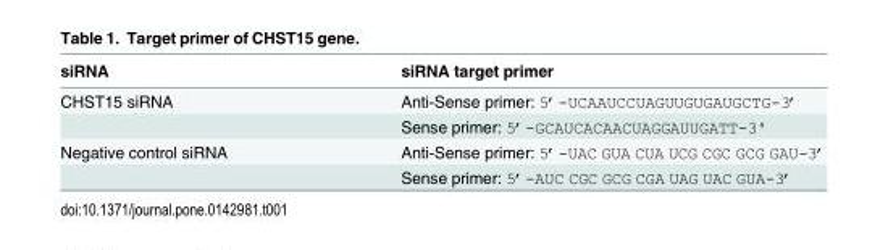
<table><thead><tr><td>siRNA</td><td>siRNA target primer</td></tr></thead><tbody><tr><td rowspan="2">CHST15 siRNA</td><td>Anti-Sense primer: 5’-UCAAUCCUAGUUGUGAUGCTG-3’</td></tr><tr><td>Sense primer: 5’-GCAUCACAACUAGGAUUGATT-3&#x27;</td></tr><tr><td rowspan="2">Negative control siRNA</td><td>Anti-Sense primer: 5’-UAC GUA CUA UCG CGC GCG GAU-3’</td></tr><tr><td>Sense primer: 5’-AUC CGC GCG CGA UAG UAC GUA-3’</td></tr></tbody></table>